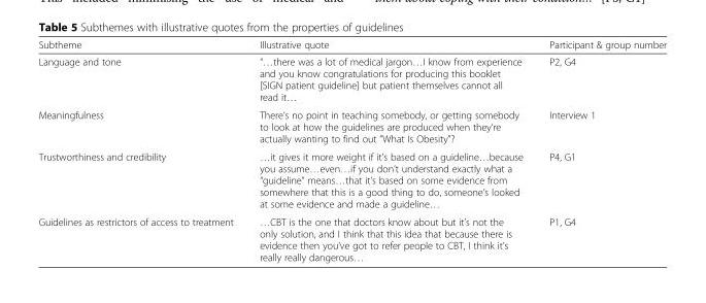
<table><thead><tr><td>Subtheme</td><td>Illustrative quote</td><td>Participant &amp; group number</td></tr></thead><tbody><tr><td>Language and tone</td><td>“…there was a lot of medical jargon…I know from experience and you know congratulations for producing this booklet [SIGN patient guideline] but patient themselves cannot all read it…</td><td>P2, G4</td></tr><tr><td>Meaningfulness</td><td>There’s no point in teaching somebody, or getting somebody to look at how the guidelines are produced when they’re actually wanting to find out ”What Is Obesity&quot;?</td><td>Interview 1</td></tr><tr><td>Trustworthiness and credibility</td><td>…it gives it more weight if it’s based on a guideline…because you assume…even…if you don’t understand exactly what a “guideline” means…that it’s based on some evidence from somewhere that this is a good thing to do, someone’s looked at some evidence and made a guideline…</td><td>P4, G1</td></tr><tr><td>Guidelines as restrictors of access to treatment</td><td>…CBT is the one that doctors know about but it’s not the only solution, and I think that this idea that because there is evidence then you’ve got to refer people to CBT, I think it’s really really dangerous…</td><td>P1, G4</td></tr></tbody></table>